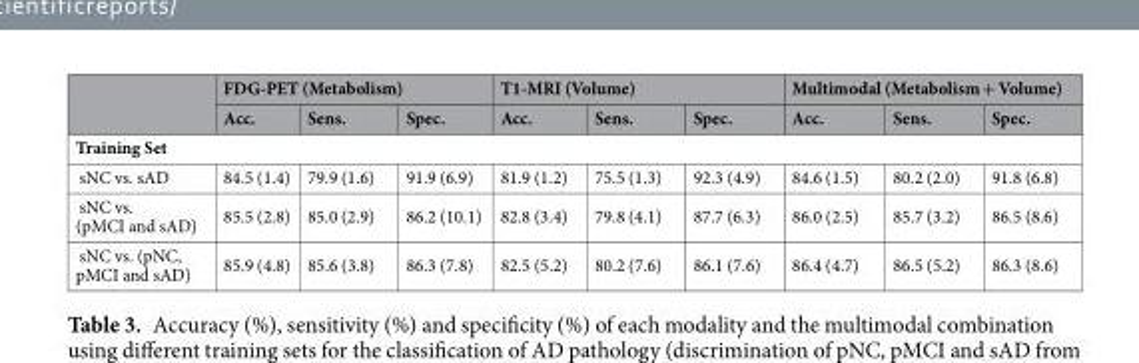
<table><thead><tr><td rowspan="2"></td><td colspan="3">FDG-PET (Metabolism)</td><td colspan="3">T1-MRI (Volume)</td><td colspan="3">Multimodal (Metabolism + Volume)</td></tr><tr><td>Acc.</td><td>Sens.</td><td>Spec.</td><td>Acc.</td><td>Sens.</td><td>Spec.</td><td>Acc.</td><td>Sens.</td><td>Spec.</td></tr></thead><tbody><tr><td colspan="10">Training Set</td></tr><tr><td>sNC vs. sAD</td><td>84.5 (1.4)</td><td>79.9 (1.6)</td><td>91.9 (6.9)</td><td>81.9 (1.2)</td><td>75.5 (1.3)</td><td>92.3 (4.9)</td><td>84.6 (1.5)</td><td>80.2 (2.0)</td><td>91.8 (6.8)</td></tr><tr><td>sNC vs. (pMCI and sAD)</td><td>85.5 (2.8)</td><td>85.0 (2.9)</td><td>86.2 (10.1)</td><td>82.8 (3.4)</td><td>79.8 (4.1)</td><td>87.7 (6.3)</td><td>86.0 (2.5)</td><td>85.7 (3.2)</td><td>86.5 (8.6)</td></tr><tr><td>sNC vs. (pNC, pMCI and sAD)</td><td>85.9 (4.8)</td><td>85.6 (3.8)</td><td>86.3 (7.8)</td><td>82.5 (5.2)</td><td>80.2 (7.6)</td><td>86.1 (7.6)</td><td>86.4 (4.7)</td><td>86.5 (5.2)</td><td>86.3 (8.6)</td></tr></tbody></table>